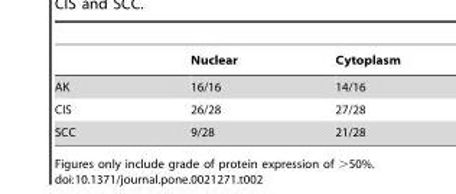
<table><thead><tr><td></td><td>Nuclear</td><td>Cytoplasm</td></tr></thead><tbody><tr><td>AK</td><td>16/16</td><td>14/16</td></tr><tr><td>CIS</td><td>26/28</td><td>27/28</td></tr><tr><td>SCC</td><td>9/28</td><td>21/28</td></tr></tbody></table>